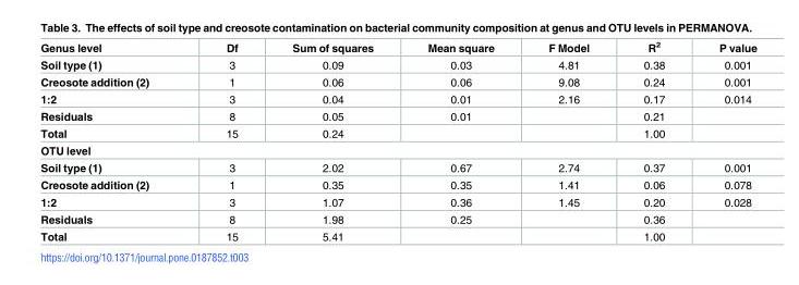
<table><thead><tr><td>Genus level</td><td>Df</td><td>Sum of squares</td><td>Mean square</td><td>F Model</td><td>R<sup>2</sup></td><td>P value</td></tr></thead><tbody><tr><td>Soil type (1)</td><td>3</td><td>0.09</td><td>0.03</td><td>4.81</td><td>0.38</td><td>0.001</td></tr><tr><td>Creosote addition (2)</td><td>1</td><td>0.06</td><td>0.06</td><td>9.08</td><td>0.24</td><td>0.001</td></tr><tr><td>1:2</td><td>3</td><td>0.04</td><td>0.01</td><td>2.16</td><td>0.17</td><td>0.014</td></tr><tr><td>Residuals</td><td>8</td><td>0.05</td><td>0.01</td><td></td><td>0.21</td><td></td></tr><tr><td>Total</td><td>15</td><td>0.24</td><td></td><td></td><td>1.00</td><td></td></tr><tr><td colspan="7">OTU level</td></tr><tr><td>Soil type (1)</td><td>3</td><td>2.02</td><td>0.67</td><td>2.74</td><td>0.37</td><td>0.001</td></tr><tr><td>Creosote addition (2)</td><td>1</td><td>0.35</td><td>0.35</td><td>1.41</td><td>0.06</td><td>0.078</td></tr><tr><td>1:2</td><td>3</td><td>1.07</td><td>0.36</td><td>1.45</td><td>0.20</td><td>0.028</td></tr><tr><td>Residuals</td><td>8</td><td>1.98</td><td>0.25</td><td></td><td>0.36</td><td></td></tr><tr><td>Total</td><td>15</td><td>5.41</td><td></td><td></td><td>1.00</td><td></td></tr></tbody></table>